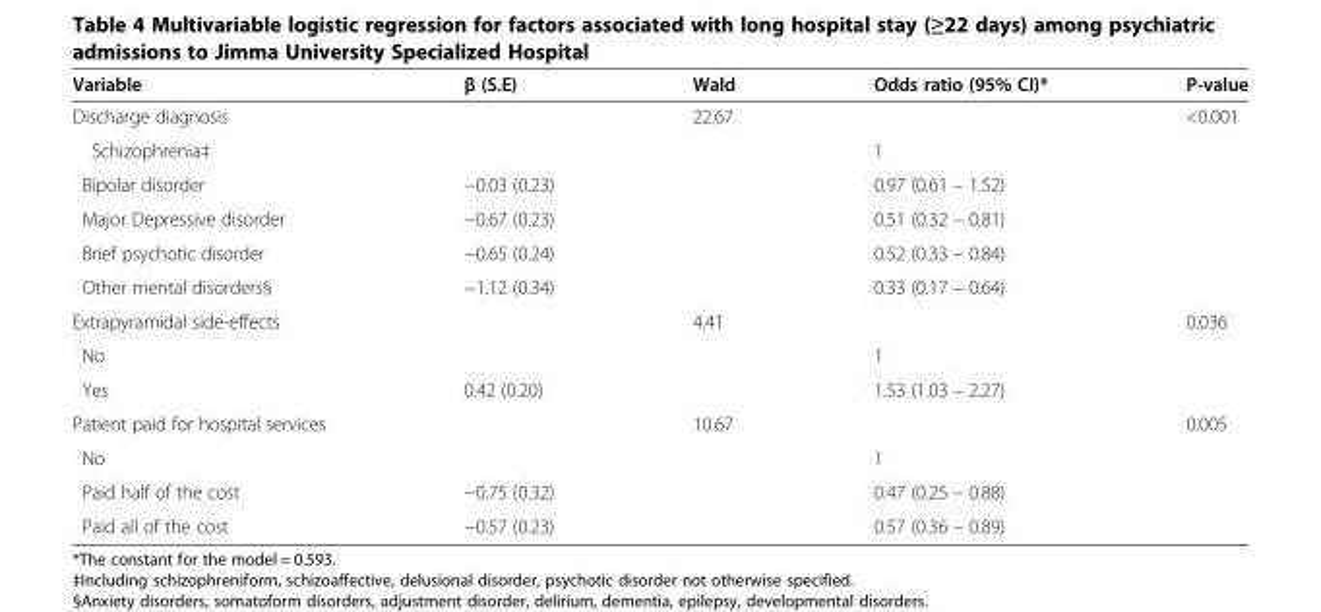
<table><thead><tr><td>Variable</td><td>β (S.E)</td><td>Wald</td><td>Odds ratio (95% CI)*</td><td>P-value</td></tr></thead><tbody><tr><td>Discharge diagnosis</td><td></td><td>22.67</td><td></td><td>&lt;0.001</td></tr><tr><td>Schizophrenia‡</td><td></td><td></td><td>1</td><td></td></tr><tr><td>Bipolar disorder</td><td>−0.03 (0.23)</td><td></td><td>0.97 (0.61 – 1.52)</td><td></td></tr><tr><td>Major Depressive disorder</td><td>−0.67 (0.23)</td><td></td><td>0.51 (0.32 – 0.81)</td><td></td></tr><tr><td>Brief psychotic disorder</td><td>−0.65 (0.24)</td><td></td><td>0.52 (0.33 – 0.84)</td><td></td></tr><tr><td>Other mental disorders§</td><td>−1.12 (0.34)</td><td></td><td>0.33 (0.17 – 0.64)</td><td></td></tr><tr><td>Extrapyramidal side-effects</td><td></td><td>4.41</td><td></td><td>0.036</td></tr><tr><td>No</td><td></td><td></td><td>1</td><td></td></tr><tr><td>Yes</td><td>0.42 (0.20)</td><td></td><td>1.53 (1.03 – 2.27)</td><td></td></tr><tr><td>Patient paid for hospital services</td><td></td><td>10.67</td><td></td><td>0.005</td></tr><tr><td>No</td><td></td><td></td><td>1</td><td></td></tr><tr><td>Paid half of the cost</td><td>−0.75 (0.32)</td><td></td><td>0.47 (0.25 – 0.88)</td><td></td></tr><tr><td>Paid all of the cost</td><td>−0.57 (0.23)</td><td></td><td>0.57 (0.36 – 0.89)</td><td></td></tr></tbody></table>